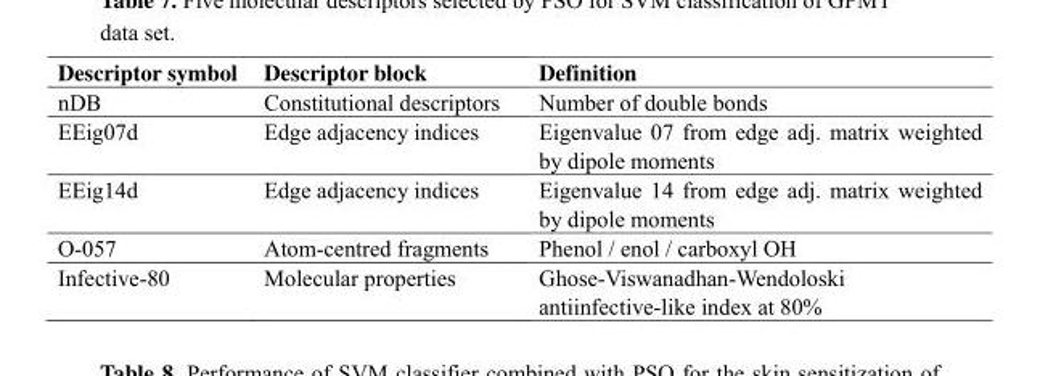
<table><thead><tr><td>Descriptor symbol</td><td>Descriptor block</td><td>Definition</td></tr></thead><tbody><tr><td>nDB</td><td>Constitutional descriptors</td><td>Number of double bonds</td></tr><tr><td>EEig07d</td><td>Edge adjacency indices</td><td>Eigenvalue 07 from edge adj. matrix weighted by dipole moments</td></tr><tr><td>EEig14d</td><td>Edge adjacency indices</td><td>Eigenvalue 14 from edge adj. matrix weighted by dipole moments</td></tr><tr><td>O-057</td><td>Atom-centred fragments</td><td>Phenol / enol / carboxyl OH</td></tr><tr><td>Infective-80</td><td>Molecular properties</td><td>Ghose-Viswanadhan-Wendoloski antiinfective-like index at 80%</td></tr></tbody></table>